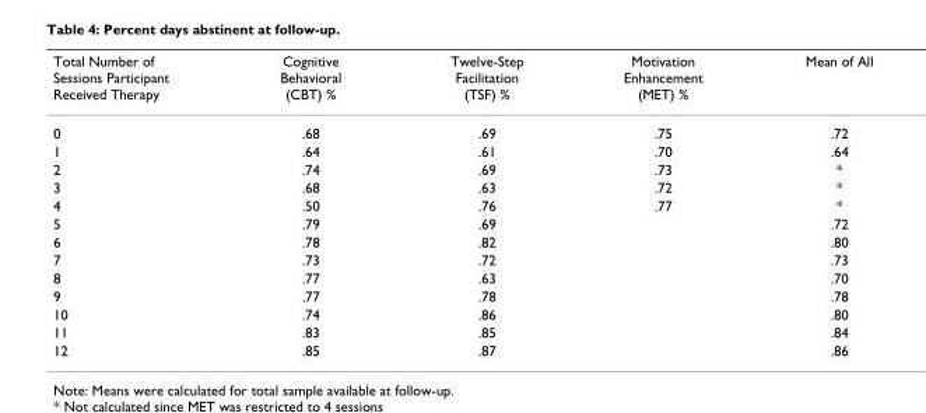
<table><thead><tr><td>Total Number of Sessions Participant Received Therapy</td><td>Cognitive Behavioral (CBT) %</td><td>Twelve-Step Facilitation (TSF) %</td><td>Motivation Enhancement (MET) %</td><td>Mean of All</td></tr></thead><tbody><tr><td>0</td><td>.68</td><td>.69</td><td>.75</td><td>.72</td></tr><tr><td>1</td><td>.64</td><td>.61</td><td>.70</td><td>.64</td></tr><tr><td>2</td><td>.74</td><td>.69</td><td>.73</td><td>*</td></tr><tr><td>3</td><td>.68</td><td>.63</td><td>.72</td><td>*</td></tr><tr><td>4</td><td>.50</td><td>.76</td><td>.77</td><td>*</td></tr><tr><td>5</td><td>.79</td><td>.69</td><td></td><td>.72</td></tr><tr><td>6</td><td>.78</td><td>.82</td><td></td><td>.80</td></tr><tr><td>7</td><td>.73</td><td>.72</td><td></td><td>.73</td></tr><tr><td>8</td><td>.77</td><td>.63</td><td></td><td>.70</td></tr><tr><td>9</td><td>.77</td><td>.78</td><td></td><td>.78</td></tr><tr><td>10</td><td>.74</td><td>.86</td><td></td><td>.80</td></tr><tr><td>11</td><td>.83</td><td>.85</td><td></td><td>.84</td></tr><tr><td>12</td><td>.85</td><td>.87</td><td></td><td>.86</td></tr></tbody></table>